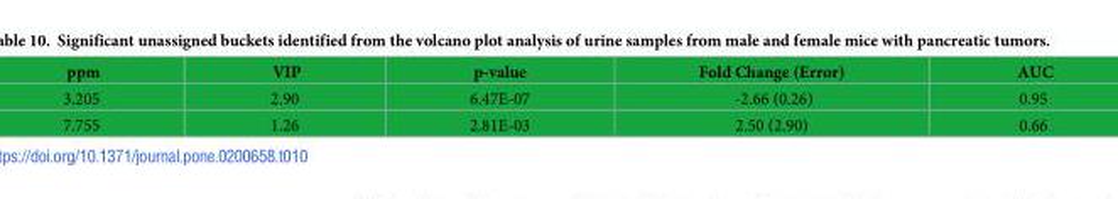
<table><thead><tr><td>ppm</td><td>VIP</td><td>p-value</td><td>Fold Change (Error)</td><td>AUC</td></tr></thead><tbody><tr><td>3.205</td><td>2.90</td><td>6.47E-07</td><td>-2.66 (0.26)</td><td>0.95</td></tr><tr><td>7.755</td><td>1.26</td><td>2.81E-03</td><td>2.50 (2.90)</td><td>0.66</td></tr></tbody></table>